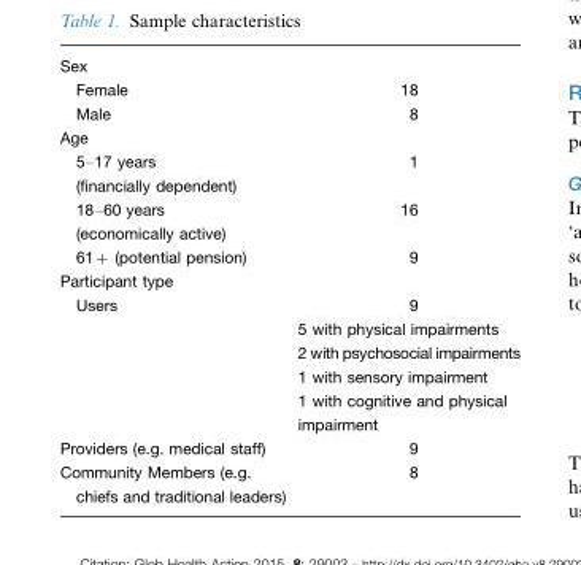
<table><tbody><tr><td colspan="2">Sex</td></tr><tr><td>Female</td><td>18</td></tr><tr><td>Male</td><td>8</td></tr><tr><td colspan="2">Age</td></tr><tr><td>5–17 years (financially dependent)</td><td>1</td></tr><tr><td>18–60 years (economically active)</td><td>16</td></tr><tr><td>61+ (potential pension)</td><td>9</td></tr><tr><td colspan="2">Participant type</td></tr><tr><td rowspan="5">Users</td><td>9</td></tr><tr><td>5 with physical impairments</td></tr><tr><td>2 with psychosocial impairments</td></tr><tr><td>1 with sensory impairment</td></tr><tr><td>1 with cognitive and physical impairment</td></tr><tr><td>Providers (e.g. medical staff)</td><td>9</td></tr><tr><td>Community Members (e.g. chiefs and traditional leaders)</td><td>8</td></tr></tbody></table>